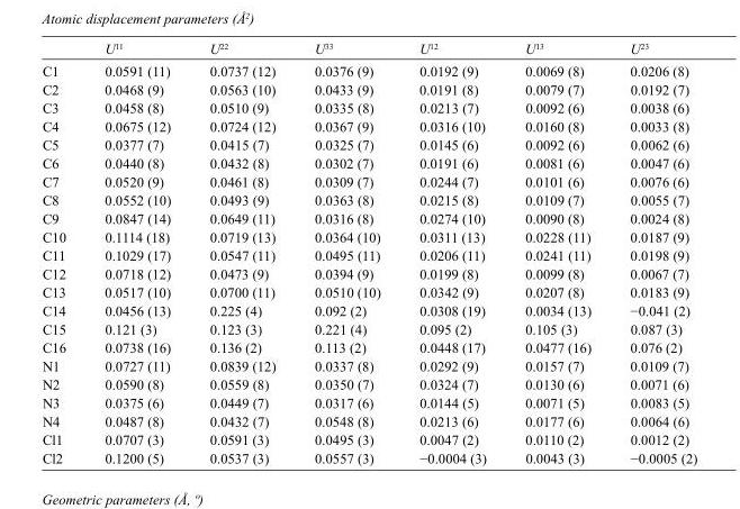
<table><thead><tr><td></td><td>U<sup>11</sup></td><td>U<sup>22</sup></td><td>U<sup>33</sup></td><td>U<sup>12</sup></td><td>U<sup>13</sup></td><td>U<sup>23</sup></td></tr></thead><tbody><tr><td>C1</td><td>0.0591 (11)</td><td>0.0737 (12)</td><td>0.0376 (9)</td><td>0.0192 (9)</td><td>0.0069 (8)</td><td>0.0206 (8)</td></tr><tr><td>C2</td><td>0.0468 (9)</td><td>0.0563 (10)</td><td>0.0433 (9)</td><td>0.0191 (8)</td><td>0.0079 (7)</td><td>0.0192 (7)</td></tr><tr><td>C3</td><td>0.0458 (8)</td><td>0.0510 (9)</td><td>0.0335 (8)</td><td>0.0213 (7)</td><td>0.0092 (6)</td><td>0.0038 (6)</td></tr><tr><td>C4</td><td>0.0675 (12)</td><td>0.0724 (12)</td><td>0.0367 (9)</td><td>0.0316 (10)</td><td>0.0160 (8)</td><td>0.0033 (8)</td></tr><tr><td>C5</td><td>0.0377 (7)</td><td>0.0415 (7)</td><td>0.0325 (7)</td><td>0.0145 (6)</td><td>0.0092 (6)</td><td>0.0062 (6)</td></tr><tr><td>C6</td><td>0.0440 (8)</td><td>0.0432 (8)</td><td>0.0302 (7)</td><td>0.0191 (6)</td><td>0.0081 (6)</td><td>0.0047 (6)</td></tr><tr><td>C7</td><td>0.0520 (9)</td><td>0.0461 (8)</td><td>0.0309 (7)</td><td>0.0244 (7)</td><td>0.0101 (6)</td><td>0.0076 (6)</td></tr><tr><td>C8</td><td>0.0552 (10)</td><td>0.0493 (9)</td><td>0.0363 (8)</td><td>0.0215 (8)</td><td>0.0109 (7)</td><td>0.0055 (7)</td></tr><tr><td>C9</td><td>0.0847 (14)</td><td>0.0649 (11)</td><td>0.0316 (8)</td><td>0.0274 (10)</td><td>0.0090 (8)</td><td>0.0024 (8)</td></tr><tr><td>C10</td><td>0.1114 (18)</td><td>0.0719 (13)</td><td>0.0364 (10)</td><td>0.0311 (13)</td><td>0.0228 (11)</td><td>0.0187 (9)</td></tr><tr><td>C11</td><td>0.1029 (17)</td><td>0.0547 (11)</td><td>0.0495 (11)</td><td>0.0206 (11)</td><td>0.0241 (11)</td><td>0.0198 (9)</td></tr><tr><td>C12</td><td>0.0718 (12)</td><td>0.0473 (9)</td><td>0.0394 (9)</td><td>0.0199 (8)</td><td>0.0099 (8)</td><td>0.0067 (7)</td></tr><tr><td>C13</td><td>0.0517 (10)</td><td>0.0700 (11)</td><td>0.0510 (10)</td><td>0.0342 (9)</td><td>0.0207 (8)</td><td>0.0183 (9)</td></tr><tr><td>C14</td><td>0.0456 (13)</td><td>0.225 (4)</td><td>0.092 (2)</td><td>0.0308 (19)</td><td>0.0034 (13)</td><td>−0.041 (2)</td></tr><tr><td>C15</td><td>0.121 (3)</td><td>0.123 (3)</td><td>0.221 (4)</td><td>0.095 (2)</td><td>0.105 (3)</td><td>0.087 (3)</td></tr><tr><td>C16</td><td>0.0738 (16)</td><td>0.136 (2)</td><td>0.113 (2)</td><td>0.0448 (17)</td><td>0.0477 (16)</td><td>0.076 (2)</td></tr><tr><td>N1</td><td>0.0727 (11)</td><td>0.0839 (12)</td><td>0.0337 (8)</td><td>0.0292 (9)</td><td>0.0157 (7)</td><td>0.0109 (7)</td></tr><tr><td>N2</td><td>0.0590 (8)</td><td>0.0559 (8)</td><td>0.0350 (7)</td><td>0.0324 (7)</td><td>0.0130 (6)</td><td>0.0071 (6)</td></tr><tr><td>N3</td><td>0.0375 (6)</td><td>0.0449 (7)</td><td>0.0317 (6)</td><td>0.0144 (5)</td><td>0.0071 (5)</td><td>0.0083 (5)</td></tr><tr><td>N4</td><td>0.0487 (8)</td><td>0.0432 (7)</td><td>0.0548 (8)</td><td>0.0213 (6)</td><td>0.0177 (6)</td><td>0.0064 (6)</td></tr><tr><td>Cl1</td><td>0.0707 (3)</td><td>0.0591 (3)</td><td>0.0495 (3)</td><td>0.0047 (2)</td><td>0.0110 (2)</td><td>0.0012 (2)</td></tr><tr><td>Cl2</td><td>0.1200 (5)</td><td>0.0537 (3)</td><td>0.0557 (3)</td><td>−0.0004 (3)</td><td>0.0043 (3)</td><td>−0.0005 (2)</td></tr></tbody></table>